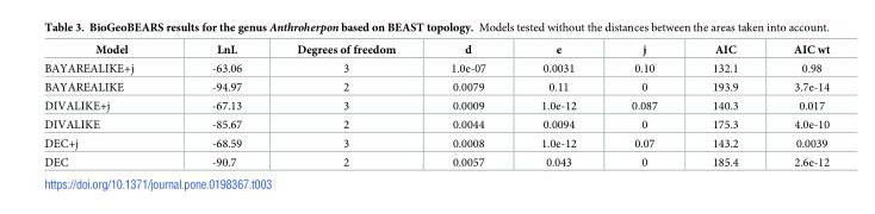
<table><thead><tr><td>Model</td><td>LnL</td><td>Degrees of freedom</td><td>d</td><td>e</td><td>j</td><td>AIC</td><td>AIC wt</td></tr></thead><tbody><tr><td>BAYAREALIKE+j</td><td>-63.06</td><td>3</td><td>1.0e-07</td><td>0.0031</td><td>0.10</td><td>132.1</td><td>0.98</td></tr><tr><td>BAYAREALIKE</td><td>-94.97</td><td>2</td><td>0.0079</td><td>0.11</td><td>0</td><td>193.9</td><td>3.7e-14</td></tr><tr><td>DIVALIKE+j</td><td>-67.13</td><td>3</td><td>0.0009</td><td>1.0e-12</td><td>0.087</td><td>140.3</td><td>0.017</td></tr><tr><td>DIVALIKE</td><td>-85.67</td><td>2</td><td>0.0044</td><td>0.0094</td><td>0</td><td>175.3</td><td>4.0e-10</td></tr><tr><td>DEC+j</td><td>-68.59</td><td>3</td><td>0.0008</td><td>1.0e-12</td><td>0.07</td><td>143.2</td><td>0.0039</td></tr><tr><td>DEC</td><td>-90.7</td><td>2</td><td>0.0057</td><td>0.043</td><td>0</td><td>185.4</td><td>2.6e-12</td></tr></tbody></table>